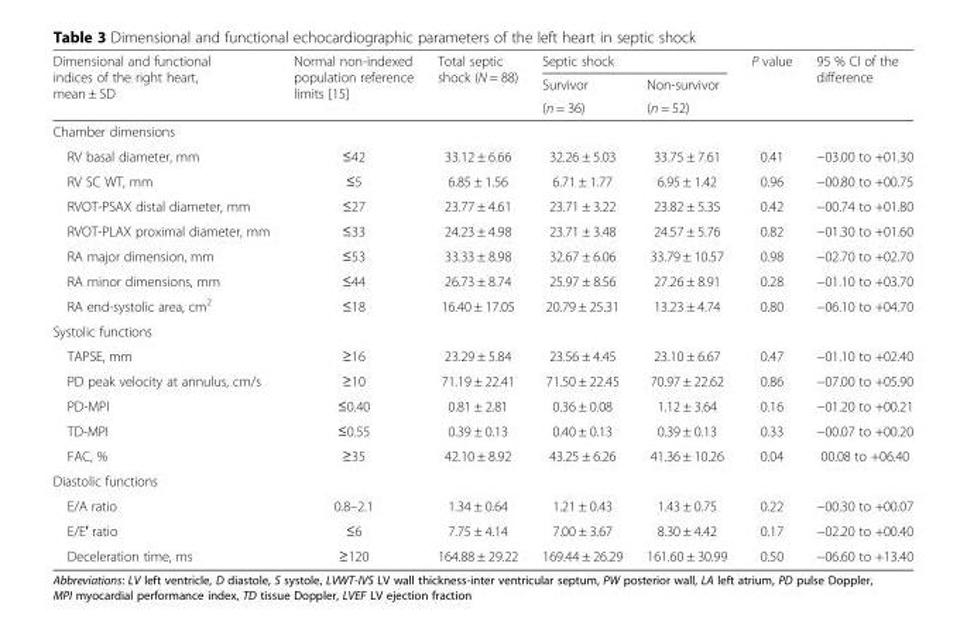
<table><thead><tr><td rowspan="3">Dimensional and functional indices of the right heart, mean ± SD</td><td rowspan="3">Normal non-indexed population reference limits [15]</td><td rowspan="3">Total septic shock (N = 88)</td><td colspan="2">Septic shock</td><td rowspan="3">P value</td><td rowspan="3">95 % CI of the difference</td></tr><tr><td rowspan="2">Survivor (n = 36)</td><td rowspan="2">Non-survivor (n = 52)</td></tr><tr></tr></thead><tbody><tr><td colspan="7">Chamber dimensions</td></tr><tr><td>RV basal diameter, mm</td><td>≤42</td><td>33.12 ± 6.66</td><td>32.26 ± 5.03</td><td>33.75 ± 7.61</td><td>0.41</td><td>−03.00 to +01.30</td></tr><tr><td>RV SC WT, mm</td><td>≤5</td><td>6.85 ± 1.56</td><td>6.71 ± 1.77</td><td>6.95 ± 1.42</td><td>0.96</td><td>−00.80 to +00.75</td></tr><tr><td>RVOT-PSAX distal diameter, mm</td><td>≤27</td><td>23.77 ± 4.61</td><td>23.71 ± 3.22</td><td>23.82 ± 5.35</td><td>0.42</td><td>−00.74 to +01.80</td></tr><tr><td>RVOT-PLAX proximal diameter, mm</td><td>≤33</td><td>24.23 ± 4.98</td><td>23.71 ± 3.48</td><td>24.57 ± 5.76</td><td>0.82</td><td>−01.30 to +01.60</td></tr><tr><td>RA major dimension, mm</td><td>≤53</td><td>33.33 ± 8.98</td><td>32.67 ± 6.06</td><td>33.79 ± 10.57</td><td>0.98</td><td>−02.70 to +02.70</td></tr><tr><td>RA minor dimensions, mm</td><td>≤44</td><td>26.73 ± 8.74</td><td>25.97 ± 8.56</td><td>27.26 ± 8.91</td><td>0.28</td><td>−01.10 to +03.70</td></tr><tr><td>RA end-systolic area, cm<sup>2</sup></td><td>≤18</td><td>16.40 ± 17.05</td><td>20.79 ± 25.31</td><td>13.23 ± 4.74</td><td>0.80</td><td>−06.10 to +04.70</td></tr><tr><td colspan="7">Systolic functions</td></tr><tr><td>TAPSE, mm</td><td>≥16</td><td>23.29 ± 5.84</td><td>23.56 ± 4.45</td><td>23.10 ± 6.67</td><td>0.47</td><td>−01.10 to +02.40</td></tr><tr><td>PD peak velocity at annulus, cm/s</td><td>≥10</td><td>71.19 ± 22.41</td><td>71.50 ± 22.45</td><td>70.97 ± 22.62</td><td>0.86</td><td>−07.00 to +05.90</td></tr><tr><td>PD-MPI</td><td>≤0.40</td><td>0.81 ± 2.81</td><td>0.36 ± 0.08</td><td>1.12 ± 3.64</td><td>0.16</td><td>−01.20 to +00.21</td></tr><tr><td>TD-MPI</td><td>≤0.55</td><td>0.39 ± 0.13</td><td>0.40 ± 0.13</td><td>0.39 ± 0.13</td><td>0.33</td><td>−00.07 to +00.20</td></tr><tr><td>FAC, %</td><td>≥35</td><td>42.10 ± 8.92</td><td>43.25 ± 6.26</td><td>41.36 ± 10.26</td><td>0.04</td><td>00.08 to +06.40</td></tr><tr><td colspan="7">Diastolic functions</td></tr><tr><td>E/A ratio</td><td>0.8–2.1</td><td>1.34 ± 0.64</td><td>1.21 ± 0.43</td><td>1.43 ± 0.75</td><td>0.22</td><td>−00.30 to +00.07</td></tr><tr><td>E/E′ ratio</td><td>≤6</td><td>7.75 ± 4.14</td><td>7.00 ± 3.67</td><td>8.30 ± 4.42</td><td>0.17</td><td>−02.20 to +00.40</td></tr><tr><td>Deceleration time, ms</td><td>≥120</td><td>164.88 ± 29.22</td><td>169.44 ± 26.29</td><td>161.60 ± 30.99</td><td>0.50</td><td>−06.60 to +13.40</td></tr></tbody></table>